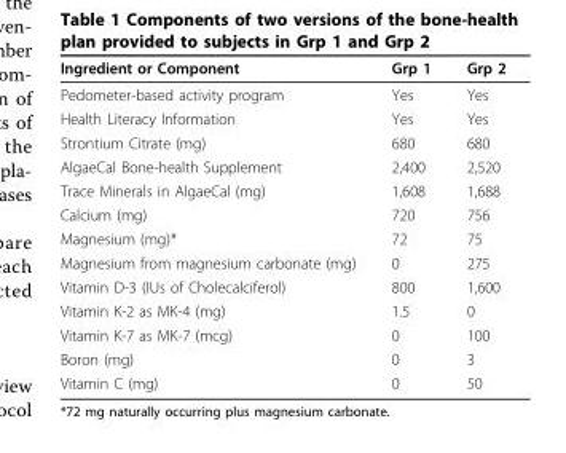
<table><thead><tr><td>Ingredient or Component</td><td>Grp 1</td><td>Grp 2</td></tr></thead><tbody><tr><td>Pedometer-based activity program</td><td>Yes</td><td>Yes</td></tr><tr><td>Health Literacy Information</td><td>Yes</td><td>Yes</td></tr><tr><td>Strontium Citrate (mg)</td><td>680</td><td>680</td></tr><tr><td>AlgaeCal Bone-health Supplement</td><td>2,400</td><td>2,520</td></tr><tr><td>Trace Minerals in AlgaeCal (mg)</td><td>1,608</td><td>1,688</td></tr><tr><td>Calcium (mg)</td><td>720</td><td>756</td></tr><tr><td>Magnesium (mg)*</td><td>72</td><td>75</td></tr><tr><td>Magnesium from magnesium carbonate (mg)</td><td>0</td><td>275</td></tr><tr><td>Vitamin D-3 (IUs of Cholecalciferol)</td><td>800</td><td>1,600</td></tr><tr><td>Vitamin K-2 as MK-4 (mg)</td><td>1.5</td><td>0</td></tr><tr><td>Vitamin K-7 as MK-7 (mcg)</td><td>0</td><td>100</td></tr><tr><td>Boron (mg)</td><td>0</td><td>3</td></tr><tr><td>Vitamin C (mg)</td><td>0</td><td>50</td></tr></tbody></table>